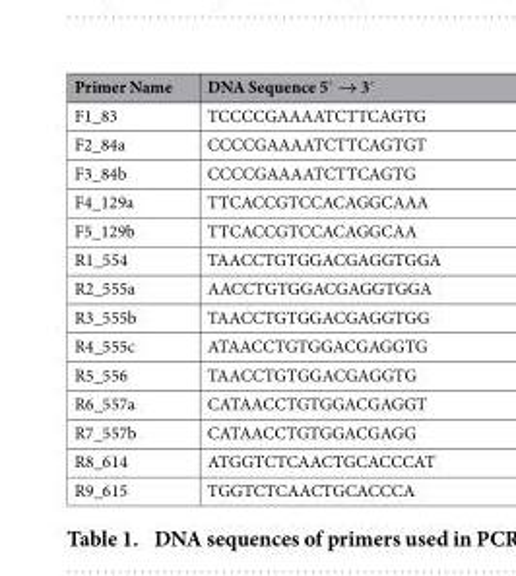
<table><thead><tr><td>Primer Name</td><td>DNA Sequence 5′ → 3′</td></tr></thead><tbody><tr><td>F1_83</td><td>TCCCCGAAAATCTTCAGTG</td></tr><tr><td>F2_84a</td><td>CCCCGAAAATCTTCAGTGT</td></tr><tr><td>F3_84b</td><td>CCCCGAAAATCTTCAGTG</td></tr><tr><td>F4_129a</td><td>TTCACCGTCCACAGGCAAA</td></tr><tr><td>F5_129b</td><td>TTCACCGTCCACAGGCAA</td></tr><tr><td>R1_554</td><td>TAACCTGTGGACGAGGTGGA</td></tr><tr><td>R2_555a</td><td>AACCTGTGGACGAGGTGGA</td></tr><tr><td>R3_555b</td><td>TAACCTGTGGACGAGGTGG</td></tr><tr><td>R4_555c</td><td>ATAACCTGTGGACGAGGTG</td></tr><tr><td>R5_556</td><td>TAACCTGTGGACGAGGTG</td></tr><tr><td>R6_557a</td><td>CATAACCTGTGGACGAGGT</td></tr><tr><td>R7_557b</td><td>CATAACCTGTGGACGAGG</td></tr><tr><td>R8_614</td><td>ATGGTCTCAACTGCACCCAT</td></tr><tr><td>R9_615</td><td>TGGTCTCAACTGCACCCA</td></tr></tbody></table>